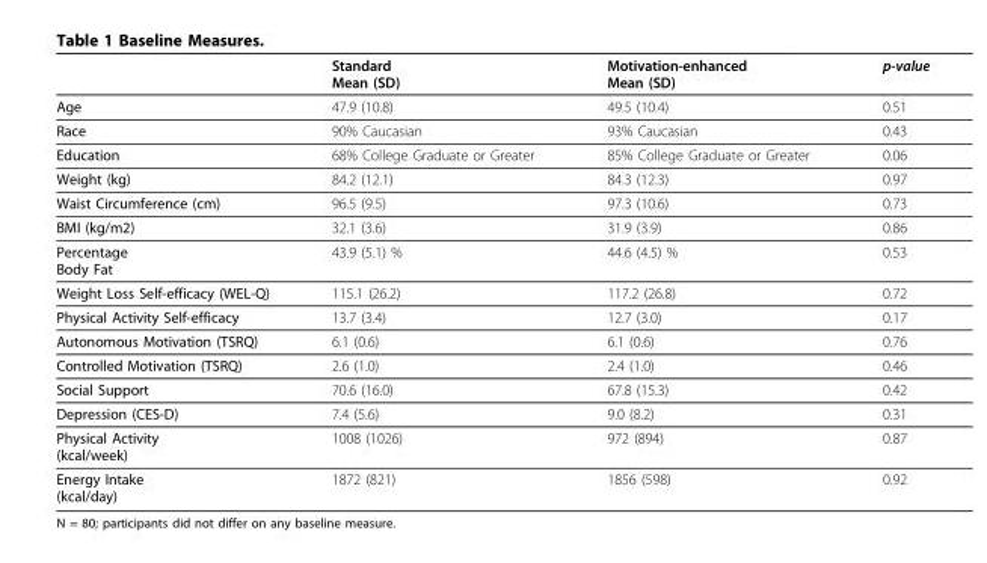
<table><thead><tr><td></td><td>Standard Mean (SD)</td><td>Motivation-enhanced Mean (SD)</td><td>p-value</td></tr></thead><tbody><tr><td>Age</td><td>47.9 (10.8)</td><td>49.5 (10.4)</td><td>0.51</td></tr><tr><td>Race</td><td>90% Caucasian</td><td>93% Caucasian</td><td>0.43</td></tr><tr><td>Education</td><td>68% College Graduate or Greater</td><td>85% College Graduate or Greater</td><td>0.06</td></tr><tr><td>Weight (kg)</td><td>84.2 (12.1)</td><td>84.3 (12.3)</td><td>0.97</td></tr><tr><td>Waist Circumference (cm)</td><td>96.5 (9.5)</td><td>97.3 (10.6)</td><td>0.73</td></tr><tr><td>BMI (kg/m2)</td><td>32.1 (3.6)</td><td>31.9 (3.9)</td><td>0.86</td></tr><tr><td>Percentage Body Fat</td><td>43.9 (5.1) %</td><td>44.6 (4.5) %</td><td>0.53</td></tr><tr><td>Weight Loss Self-efficacy (WEL-Q)</td><td>115.1 (26.2)</td><td>117.2 (26.8)</td><td>0.72</td></tr><tr><td>Physical Activity Self-efficacy</td><td>13.7 (3.4)</td><td>12.7 (3.0)</td><td>0.17</td></tr><tr><td>Autonomous Motivation (TSRQ)</td><td>6.1 (0.6)</td><td>6.1 (0.6)</td><td>0.76</td></tr><tr><td>Controlled Motivation (TSRQ)</td><td>2.6 (1.0)</td><td>2.4 (1.0)</td><td>0.46</td></tr><tr><td>Social Support</td><td>70.6 (16.0)</td><td>67.8 (15.3)</td><td>0.42</td></tr><tr><td>Depression (CES-D)</td><td>7.4 (5.6)</td><td>9.0 (8.2)</td><td>0.31</td></tr><tr><td>Physical Activity (kcal/week)</td><td>1008 (1026)</td><td>972 (894)</td><td>0.87</td></tr><tr><td>Energy Intake (kcal/day)</td><td>1872 (821)</td><td>1856 (598)</td><td>0.92</td></tr></tbody></table>